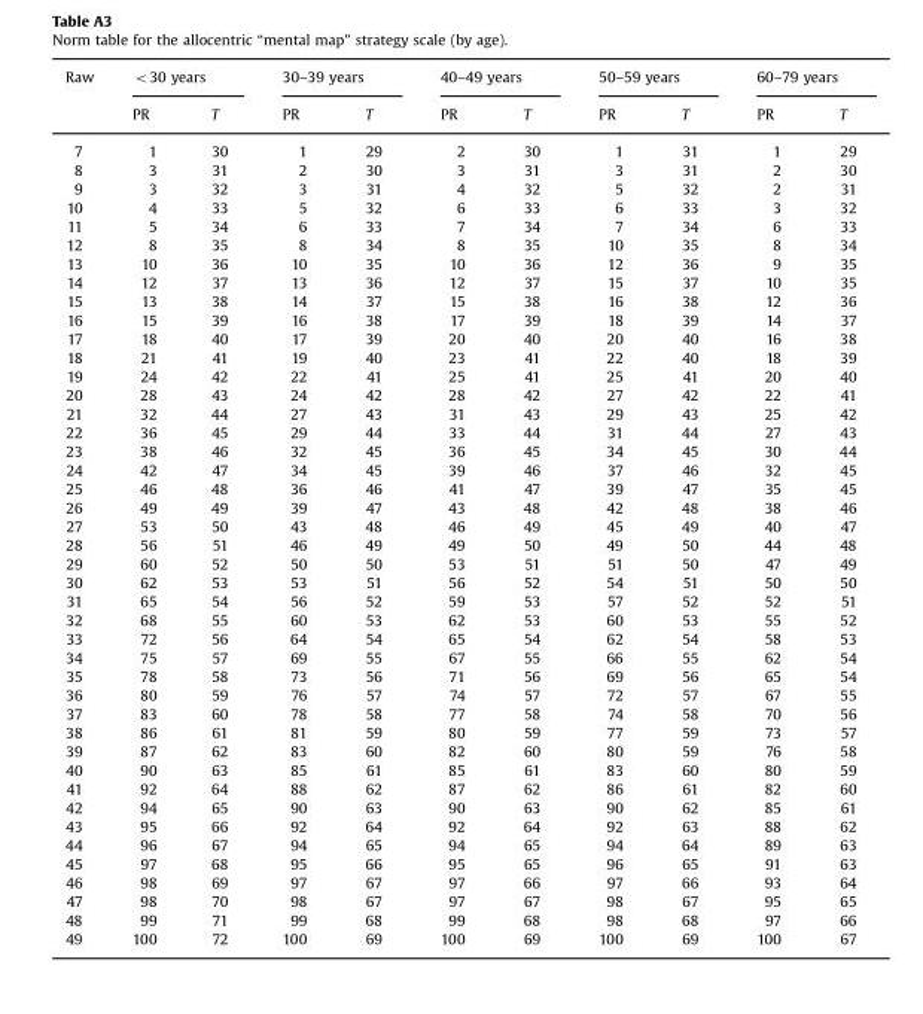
<table><thead><tr><td rowspan="2">Raw</td><td colspan="2">&lt;30 years</td><td colspan="2">30–39 years</td><td colspan="2">40–49 years</td><td colspan="2">50–59 years</td><td colspan="2">60–79 years</td></tr><tr><td>PR</td><td>T</td><td>PR</td><td>T</td><td>PR</td><td>T</td><td>PR</td><td>T</td><td>PR</td><td>T</td></tr></thead><tbody><tr><td>7</td><td>1</td><td>30</td><td>1</td><td>29</td><td>2</td><td>30</td><td>1</td><td>31</td><td>1</td><td>29</td></tr><tr><td>8</td><td>3</td><td>31</td><td>2</td><td>30</td><td>3</td><td>31</td><td>3</td><td>31</td><td>2</td><td>30</td></tr><tr><td>9</td><td>3</td><td>32</td><td>3</td><td>31</td><td>4</td><td>32</td><td>5</td><td>32</td><td>2</td><td>31</td></tr><tr><td>10</td><td>4</td><td>33</td><td>5</td><td>32</td><td>6</td><td>33</td><td>6</td><td>33</td><td>3</td><td>32</td></tr><tr><td>11</td><td>5</td><td>34</td><td>6</td><td>33</td><td>7</td><td>34</td><td>7</td><td>34</td><td>6</td><td>33</td></tr><tr><td>12</td><td>8</td><td>35</td><td>8</td><td>34</td><td>8</td><td>35</td><td>10</td><td>35</td><td>8</td><td>34</td></tr><tr><td>13</td><td>10</td><td>36</td><td>10</td><td>35</td><td>10</td><td>36</td><td>12</td><td>36</td><td>9</td><td>35</td></tr><tr><td>14</td><td>12</td><td>37</td><td>13</td><td>36</td><td>12</td><td>37</td><td>15</td><td>37</td><td>10</td><td>35</td></tr><tr><td>15</td><td>13</td><td>38</td><td>14</td><td>37</td><td>15</td><td>38</td><td>16</td><td>38</td><td>12</td><td>36</td></tr><tr><td>16</td><td>15</td><td>39</td><td>16</td><td>38</td><td>17</td><td>39</td><td>18</td><td>39</td><td>14</td><td>37</td></tr><tr><td>17</td><td>18</td><td>40</td><td>17</td><td>39</td><td>20</td><td>40</td><td>20</td><td>40</td><td>16</td><td>38</td></tr><tr><td>18</td><td>21</td><td>41</td><td>19</td><td>40</td><td>23</td><td>41</td><td>22</td><td>40</td><td>18</td><td>39</td></tr><tr><td>19</td><td>24</td><td>42</td><td>22</td><td>41</td><td>25</td><td>41</td><td>25</td><td>41</td><td>20</td><td>40</td></tr><tr><td>20</td><td>28</td><td>43</td><td>24</td><td>42</td><td>28</td><td>42</td><td>27</td><td>42</td><td>22</td><td>41</td></tr><tr><td>21</td><td>32</td><td>44</td><td>27</td><td>43</td><td>31</td><td>43</td><td>29</td><td>43</td><td>25</td><td>42</td></tr><tr><td>22</td><td>36</td><td>45</td><td>29</td><td>44</td><td>33</td><td>44</td><td>31</td><td>44</td><td>27</td><td>43</td></tr><tr><td>23</td><td>38</td><td>46</td><td>32</td><td>45</td><td>36</td><td>45</td><td>34</td><td>45</td><td>30</td><td>44</td></tr><tr><td>24</td><td>42</td><td>47</td><td>34</td><td>45</td><td>39</td><td>46</td><td>37</td><td>46</td><td>32</td><td>45</td></tr><tr><td>25</td><td>46</td><td>48</td><td>36</td><td>46</td><td>41</td><td>47</td><td>39</td><td>47</td><td>35</td><td>45</td></tr><tr><td>26</td><td>49</td><td>49</td><td>39</td><td>47</td><td>43</td><td>48</td><td>42</td><td>48</td><td>38</td><td>46</td></tr><tr><td>27</td><td>53</td><td>50</td><td>43</td><td>48</td><td>46</td><td>49</td><td>45</td><td>49</td><td>40</td><td>47</td></tr><tr><td>28</td><td>56</td><td>51</td><td>46</td><td>49</td><td>49</td><td>50</td><td>49</td><td>50</td><td>44</td><td>48</td></tr><tr><td>29</td><td>60</td><td>52</td><td>50</td><td>50</td><td>53</td><td>51</td><td>51</td><td>50</td><td>47</td><td>49</td></tr><tr><td>30</td><td>62</td><td>53</td><td>53</td><td>51</td><td>56</td><td>52</td><td>54</td><td>51</td><td>50</td><td>50</td></tr><tr><td>31</td><td>65</td><td>54</td><td>56</td><td>52</td><td>59</td><td>53</td><td>57</td><td>52</td><td>52</td><td>51</td></tr><tr><td>32</td><td>68</td><td>55</td><td>60</td><td>53</td><td>62</td><td>53</td><td>60</td><td>53</td><td>55</td><td>52</td></tr><tr><td>33</td><td>72</td><td>56</td><td>64</td><td>54</td><td>65</td><td>54</td><td>62</td><td>54</td><td>58</td><td>53</td></tr><tr><td>34</td><td>75</td><td>57</td><td>69</td><td>55</td><td>67</td><td>55</td><td>66</td><td>55</td><td>62</td><td>54</td></tr><tr><td>35</td><td>78</td><td>58</td><td>73</td><td>56</td><td>71</td><td>56</td><td>69</td><td>56</td><td>65</td><td>54</td></tr><tr><td>36</td><td>80</td><td>59</td><td>76</td><td>57</td><td>74</td><td>57</td><td>72</td><td>57</td><td>67</td><td>55</td></tr><tr><td>37</td><td>83</td><td>60</td><td>78</td><td>58</td><td>77</td><td>58</td><td>74</td><td>58</td><td>70</td><td>56</td></tr><tr><td>38</td><td>86</td><td>61</td><td>81</td><td>59</td><td>80</td><td>59</td><td>77</td><td>59</td><td>73</td><td>57</td></tr><tr><td>39</td><td>87</td><td>62</td><td>83</td><td>60</td><td>82</td><td>60</td><td>80</td><td>59</td><td>76</td><td>58</td></tr><tr><td>40</td><td>90</td><td>63</td><td>85</td><td>61</td><td>85</td><td>61</td><td>83</td><td>60</td><td>80</td><td>59</td></tr><tr><td>41</td><td>92</td><td>64</td><td>88</td><td>62</td><td>87</td><td>62</td><td>86</td><td>61</td><td>82</td><td>60</td></tr><tr><td>42</td><td>94</td><td>65</td><td>90</td><td>63</td><td>90</td><td>63</td><td>90</td><td>62</td><td>85</td><td>61</td></tr><tr><td>43</td><td>95</td><td>66</td><td>92</td><td>64</td><td>92</td><td>64</td><td>92</td><td>63</td><td>88</td><td>62</td></tr><tr><td>44</td><td>96</td><td>67</td><td>94</td><td>65</td><td>94</td><td>65</td><td>94</td><td>64</td><td>89</td><td>63</td></tr><tr><td>45</td><td>97</td><td>68</td><td>95</td><td>66</td><td>95</td><td>65</td><td>96</td><td>65</td><td>91</td><td>63</td></tr><tr><td>46</td><td>98</td><td>69</td><td>97</td><td>67</td><td>97</td><td>66</td><td>97</td><td>66</td><td>93</td><td>64</td></tr><tr><td>47</td><td>98</td><td>70</td><td>98</td><td>67</td><td>97</td><td>67</td><td>98</td><td>67</td><td>95</td><td>65</td></tr><tr><td>48</td><td>99</td><td>71</td><td>99</td><td>68</td><td>99</td><td>68</td><td>98</td><td>68</td><td>97</td><td>66</td></tr><tr><td>49</td><td>100</td><td>72</td><td>100</td><td>69</td><td>100</td><td>69</td><td>100</td><td>69</td><td>100</td><td>67</td></tr></tbody></table>